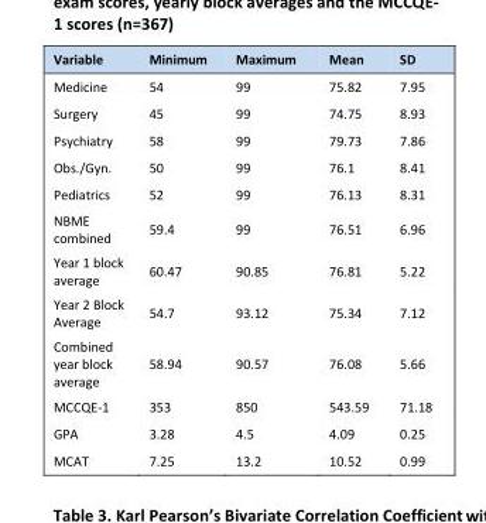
<table><thead><tr><td>Variable</td><td>Minimum</td><td>Maximum</td><td>Mean</td><td>SD</td></tr></thead><tbody><tr><td>Medicine</td><td>54</td><td>99</td><td>75.82</td><td>7.95</td></tr><tr><td>Surgery</td><td>45</td><td>99</td><td>74.75</td><td>8.93</td></tr><tr><td>Psychiatry</td><td>58</td><td>99</td><td>79.73</td><td>7.86</td></tr><tr><td>Obs./Gyn.</td><td>50</td><td>99</td><td>76.1</td><td>8.41</td></tr><tr><td>Pediatrics</td><td>52</td><td>99</td><td>76.13</td><td>8.31</td></tr><tr><td>NBME combined</td><td>59.4</td><td>99</td><td>76.51</td><td>6.96</td></tr><tr><td>Year 1 block average</td><td>60.47</td><td>90.85</td><td>76.81</td><td>5.22</td></tr><tr><td>Year 2 Block Average</td><td>54.7</td><td>93.12</td><td>75.34</td><td>7.12</td></tr><tr><td>Combined year block average</td><td>58.94</td><td>90.57</td><td>76.08</td><td>5.66</td></tr><tr><td>MCCQE-1</td><td>353</td><td>850</td><td>543.59</td><td>71.18</td></tr><tr><td>GPA</td><td>3.28</td><td>4.5</td><td>4.09</td><td>0.25</td></tr><tr><td>MCAT</td><td>7.25</td><td>13.2</td><td>10.52</td><td>0.99</td></tr></tbody></table>